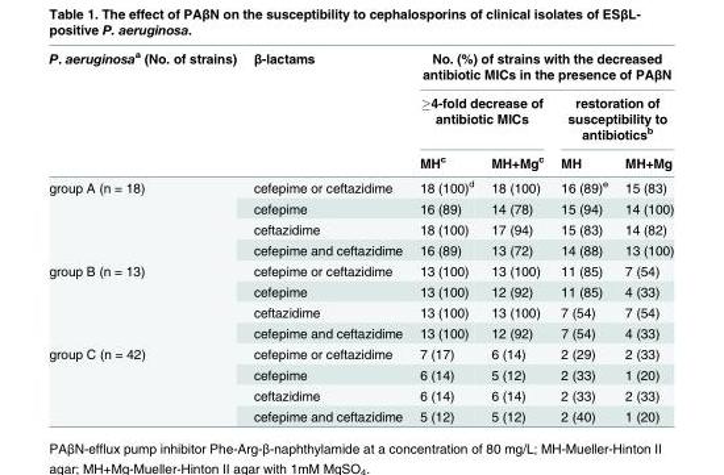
<table><thead><tr><td rowspan="3">P. aeruginosa<sup>a</sup> (No. of strains)</td><td rowspan="3">β-lactams</td><td colspan="4">No. (%) of strains with the decreased antibiotic MICs in the presence of PAβN</td></tr><tr><td colspan="2">≥4-fold decrease of antibiotic MICs</td><td colspan="2">restoration of susceptibility to antibiotics<sup>b</sup></td></tr><tr><td>MH<sup>c</sup></td><td>MH+Mg<sup>c</sup></td><td>MH</td><td>MH+Mg</td></tr></thead><tbody><tr><td rowspan="4">group A (n = 18)</td><td>cefepime or ceftazidime</td><td>18 (100)<sup>d</sup></td><td>18 (100)</td><td>16 (89)<sup>e</sup></td><td>15 (83)</td></tr><tr><td>cefepime</td><td>16 (89)</td><td>14 (78)</td><td>15 (94)</td><td>14 (100)</td></tr><tr><td>ceftazidime</td><td>18 (100)</td><td>17 (94)</td><td>15 (83)</td><td>14 (82)</td></tr><tr><td>cefepime and ceftazidime</td><td>16 (89)</td><td>13 (72)</td><td>14 (88)</td><td>13 (100)</td></tr><tr><td rowspan="4">group B (n = 13)</td><td>cefepime or ceftazidime</td><td>13 (100)</td><td>13 (100)</td><td>11 (85)</td><td>7 (54)</td></tr><tr><td>cefepime</td><td>13 (100)</td><td>12 (92)</td><td>11 (85)</td><td>4 (33)</td></tr><tr><td>ceftazidime</td><td>13 (100)</td><td>13 (100)</td><td>7 (54)</td><td>7 (54)</td></tr><tr><td>cefepime and ceftazidime</td><td>13 (100)</td><td>12 (92)</td><td>7 (54)</td><td>4 (33)</td></tr><tr><td rowspan="4">group C (n = 42)</td><td>cefepime or ceftazidime</td><td>7 (17)</td><td>6 (14)</td><td>2 (29)</td><td>2 (33)</td></tr><tr><td>cefepime</td><td>6 (14)</td><td>5 (12)</td><td>2 (33)</td><td>1 (20)</td></tr><tr><td>ceftazidime</td><td>6 (14)</td><td>6 (14)</td><td>2 (33)</td><td>2 (33)</td></tr><tr><td>cefepime and ceftazidime</td><td>5 (12)</td><td>5 (12)</td><td>2 (40)</td><td>1 (20)</td></tr></tbody></table>